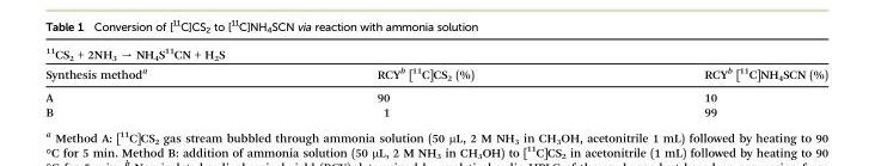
<table><thead><tr><td colspan="3"><sup>11</sup>CS<sub>2</sub> + 2NH<sub>3</sub> → NH<sub>4</sub>S<sup>11</sup>CN + H<sub>2</sub>S</td></tr><tr><td>Synthesis method<sup>a</sup></td><td>RCY<sup>b</sup> [<sup>11</sup>C]CS<sub>2</sub> (%)</td><td>RCY<sup>b</sup> [<sup>11</sup>C]NH<sub>4</sub>SCN (%)</td></tr></thead><tbody><tr><td>A</td><td>90</td><td>10</td></tr><tr><td>B</td><td>1</td><td>99</td></tr></tbody></table>